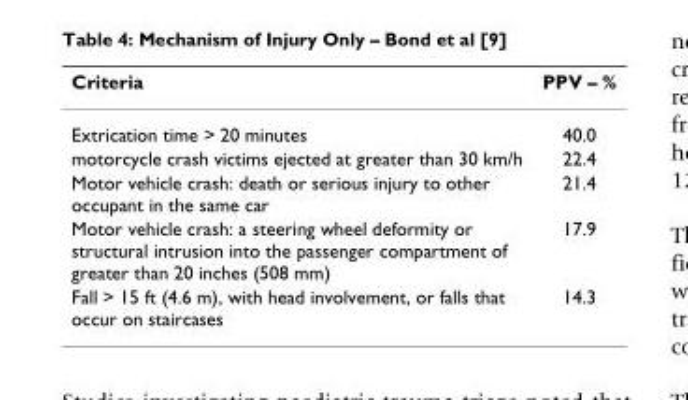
<table><thead><tr><td>Criteria</td><td>PPV – %</td></tr></thead><tbody><tr><td>Extrication time &gt; 20 minutes</td><td>40.0</td></tr><tr><td>motorcycle crash victims ejected at greater than 30 km/h</td><td>22.4</td></tr><tr><td>Motor vehicle crash: death or serious injury to other occupant in the same car</td><td>21.4</td></tr><tr><td>Motor vehicle crash: a steering wheel deformity or structural intrusion into the passenger compartment of greater than 20 inches (508 mm)</td><td>17.9</td></tr><tr><td>Fall &gt; 15 ft (4.6 m), with head involvement, or falls that occur on staircases</td><td>14.3</td></tr></tbody></table>